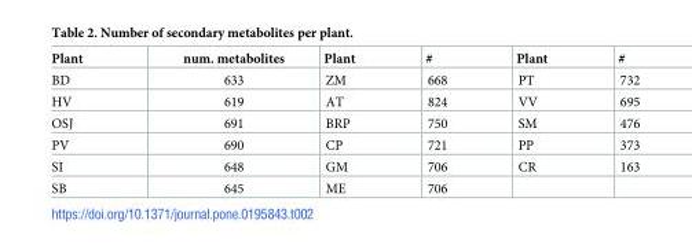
<table><thead><tr><td>Plant</td><td>num. metabolites</td><td>Plant</td><td>#</td><td>Plant</td><td>#</td></tr></thead><tbody><tr><td>BD</td><td>633</td><td>ZM</td><td>668</td><td>PT</td><td>732</td></tr><tr><td>HV</td><td>619</td><td>AT</td><td>824</td><td>VV</td><td>695</td></tr><tr><td>OSJ</td><td>691</td><td>BRP</td><td>750</td><td>SM</td><td>476</td></tr><tr><td>PV</td><td>690</td><td>CP</td><td>721</td><td>PP</td><td>373</td></tr><tr><td>SI</td><td>648</td><td>GM</td><td>706</td><td>CR</td><td>163</td></tr><tr><td>SB</td><td>645</td><td>ME</td><td>706</td><td></td><td></td></tr></tbody></table>